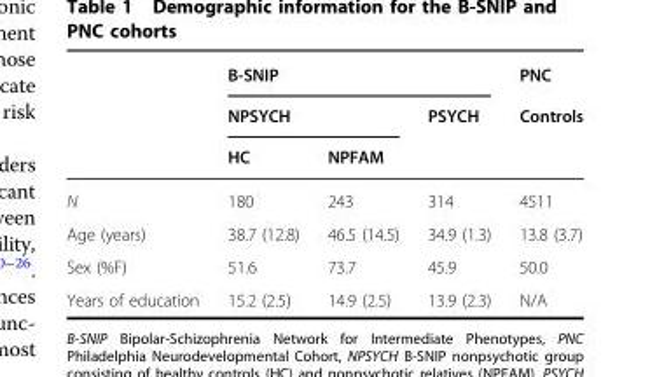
<table><thead><tr><td rowspan="3"></td><td colspan="3">B-SNIP</td><td rowspan="3">PNC Controls</td></tr><tr><td colspan="2">NPSYCH</td><td rowspan="2">PSYCH</td></tr><tr><td>HC</td><td>NPFAM</td></tr></thead><tbody><tr><td>N</td><td>180</td><td>243</td><td>314</td><td>4511</td></tr><tr><td>Age (years)</td><td>38.7 (12.8)</td><td>46.5 (14.5)</td><td>34.9 (1.3)</td><td>13.8 (3.7)</td></tr><tr><td>Sex (%F)</td><td>51.6</td><td>73.7</td><td>45.9</td><td>50.0</td></tr><tr><td>Years of education</td><td>15.2 (2.5)</td><td>14.9 (2.5)</td><td>13.9 (2.3)</td><td>N/A</td></tr></tbody></table>